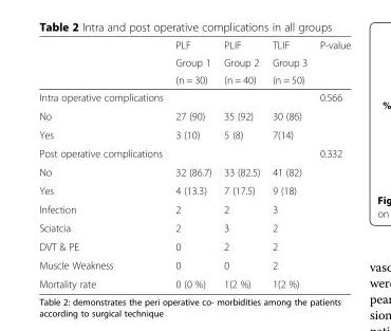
<table><thead><tr><td rowspan="3"></td><td rowspan="3">PLF Group 1 (n = 30)</td><td rowspan="3">PLIF Group 2 (n = 40)</td><td rowspan="3">TLIF Group 3 (n = 50)</td><td rowspan="3">P-value</td></tr><tr></tr><tr></tr></thead><tbody><tr><td>Intra operative complications</td><td></td><td></td><td></td><td>0.566</td></tr><tr><td>No</td><td>27 (90)</td><td>35 (92)</td><td>30 (86)</td><td></td></tr><tr><td>Yes</td><td>3 (10)</td><td>5 (8)</td><td>7(14)</td><td></td></tr><tr><td>Post operative complications</td><td></td><td></td><td></td><td>0.332</td></tr><tr><td>No</td><td>32 (86.7)</td><td>33 (82.5)</td><td>41 (82)</td><td></td></tr><tr><td>Yes</td><td>4 (13.3)</td><td>7 (17.5)</td><td>9 (18)</td><td></td></tr><tr><td>Infection</td><td>2</td><td>2</td><td>3</td><td></td></tr><tr><td>Sciatcia</td><td>2</td><td>3</td><td>2</td><td></td></tr><tr><td>DVT &amp; PE</td><td>0</td><td>2</td><td>2</td><td></td></tr><tr><td>Muscle Weakness</td><td>0</td><td>0</td><td>2</td><td></td></tr><tr><td>Mortality rate</td><td>0 (0 %)</td><td>1(2 %)</td><td>1(2 %)</td><td></td></tr></tbody></table>